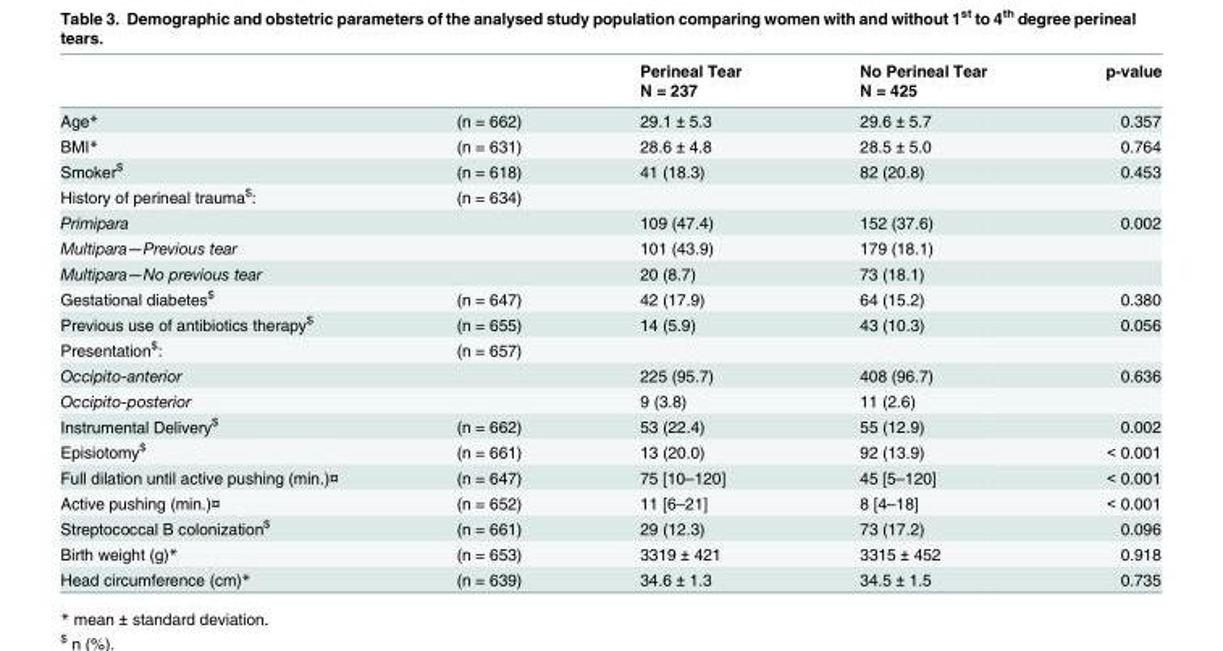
<table><thead><tr><td rowspan="2"></td><td rowspan="2"></td><td rowspan="2">Perineal Tear N = 237</td><td rowspan="2">No Perineal Tear N = 425</td><td rowspan="2">p-value</td></tr><tr></tr></thead><tbody><tr><td>Age*</td><td>(n = 662)</td><td>29.1 ± 5.3</td><td>29.6 ± 5.7</td><td>0.357</td></tr><tr><td>BMI*</td><td>(n = 631)</td><td>28.6 ± 4.8</td><td>28.5 ± 5.0</td><td>0.764</td></tr><tr><td>Smoker<sup>$</sup></td><td>(n = 618)</td><td>41 (18.3)</td><td>82 (20.8)</td><td>0.453</td></tr><tr><td>History of perineal trauma<sup>$</sup>:</td><td>(n = 634)</td><td></td><td></td><td></td></tr><tr><td>Primipara</td><td></td><td>109 (47.4)</td><td>152 (37.6)</td><td>0.002</td></tr><tr><td>Multipara—Previous tear</td><td></td><td>101 (43.9)</td><td>179 (18.1)</td><td></td></tr><tr><td>Multipara—No previous tear</td><td></td><td>20 (8.7)</td><td>73 (18.1)</td><td></td></tr><tr><td>Gestational diabetes<sup>$</sup></td><td>(n = 647)</td><td>42 (17.9)</td><td>64 (15.2)</td><td>0.380</td></tr><tr><td>Previous use of antibiotics therapy<sup>$</sup></td><td>(n = 655)</td><td>14 (5.9)</td><td>43 (10.3)</td><td>0.056</td></tr><tr><td>Presentation<sup>$</sup>:</td><td>(n = 657)</td><td></td><td></td><td></td></tr><tr><td>Occipito-anterior</td><td></td><td>225 (95.7)</td><td>408 (96.7)</td><td>0.636</td></tr><tr><td>Occipito-posterior</td><td></td><td>9 (3.8)</td><td>11 (2.6)</td><td></td></tr><tr><td>Instrumental Delivery<sup>$</sup></td><td>(n = 662)</td><td>53 (22.4)</td><td>55 (12.9)</td><td>0.002</td></tr><tr><td>Episiotomy<sup>$</sup></td><td>(n = 661)</td><td>13 (20.0)</td><td>92 (13.9)</td><td>&lt; 0.001</td></tr><tr><td>Full dilation until active pushing (min.)¤</td><td>(n = 647)</td><td>75 [10–120]</td><td>45 [5–120]</td><td>&lt; 0.001</td></tr><tr><td>Active pushing (min.)¤</td><td>(n = 652)</td><td>11 [6–21]</td><td>8 [4–18]</td><td>&lt; 0.001</td></tr><tr><td>Streptococcal B colonization<sup>$</sup></td><td>(n = 661)</td><td>29 (12.3)</td><td>73 (17.2)</td><td>0.096</td></tr><tr><td>Birth weight (g)*</td><td>(n = 653)</td><td>3319 ± 421</td><td>3315 ± 452</td><td>0.918</td></tr><tr><td>Head circumference (cm)*</td><td>(n = 639)</td><td>34.6 ± 1.3</td><td>34.5 ± 1.5</td><td>0.735</td></tr></tbody></table>